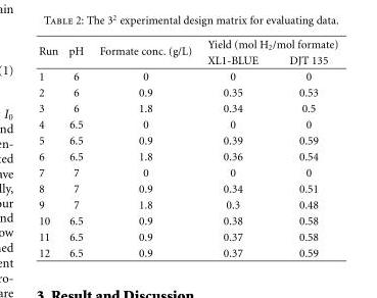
<table><thead><tr><td rowspan="2">Run</td><td rowspan="2">pH</td><td rowspan="2">Formate conc. (g/L)</td><td colspan="2">Yield (mol H<sub>2</sub>/mol formate)</td></tr><tr><td>XL1-BLUE</td><td>DJT 135</td></tr></thead><tbody><tr><td>1</td><td>6</td><td>0</td><td>0</td><td>0</td></tr><tr><td>2</td><td>6</td><td>0.9</td><td>0.35</td><td>0.53</td></tr><tr><td>3</td><td>6</td><td>1.8</td><td>0.34</td><td>0.5</td></tr><tr><td>4</td><td>6.5</td><td>0</td><td>0</td><td>0</td></tr><tr><td>5</td><td>6.5</td><td>0.9</td><td>0.39</td><td>0.59</td></tr><tr><td>6</td><td>6.5</td><td>1.8</td><td>0.36</td><td>0.54</td></tr><tr><td>7</td><td>7</td><td>0</td><td>0</td><td>0</td></tr><tr><td>8</td><td>7</td><td>0.9</td><td>0.34</td><td>0.51</td></tr><tr><td>9</td><td>7</td><td>1.8</td><td>0.3</td><td>0.48</td></tr><tr><td>10</td><td>6.5</td><td>0.9</td><td>0.38</td><td>0.58</td></tr><tr><td>11</td><td>6.5</td><td>0.9</td><td>0.37</td><td>0.58</td></tr><tr><td>12</td><td>6.5</td><td>0.9</td><td>0.37</td><td>0.59</td></tr></tbody></table>